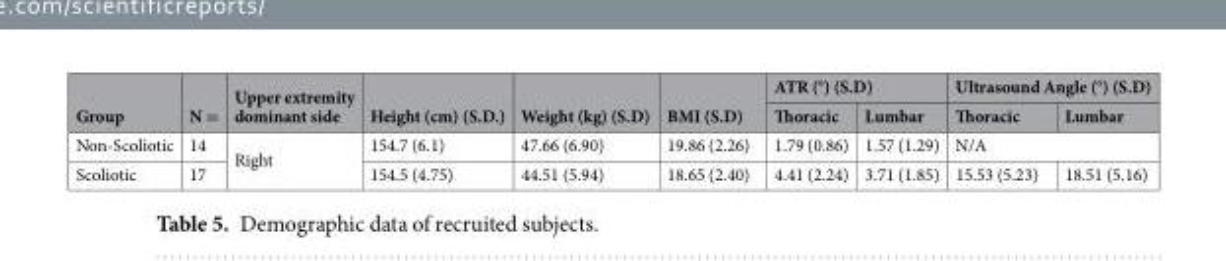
<table><thead><tr><td rowspan="2">Group</td><td rowspan="2">N =</td><td rowspan="2">Upper extremity dominant side</td><td rowspan="2">Height (cm) (S.D.)</td><td rowspan="2">Weight (kg) (S.D)</td><td rowspan="2">BMI (S.D)</td><td colspan="2">ATR (°) (S.D)</td><td colspan="2">Ultrasound Angle (°) (S.D)</td></tr><tr><td>Thoracic</td><td>Lumbar</td><td>Thoracic</td><td>Lumbar</td></tr></thead><tbody><tr><td>Non-Scoliotic</td><td>14</td><td rowspan="2">Right</td><td>154.7 (6.1)</td><td>47.66 (6.90)</td><td>19.86 (2.26)</td><td>1.79 (0.86)</td><td>1.57 (1.29)</td><td colspan="2">N/A</td></tr><tr><td>Scoliotic</td><td>17</td><td>154.5 (4.75)</td><td>44.51 (5.94)</td><td>18.65 (2.40)</td><td>4.41 (2.24)</td><td>3.71 (1.85)</td><td>15.53 (5.23)</td><td>18.51 (5.16)</td></tr></tbody></table>